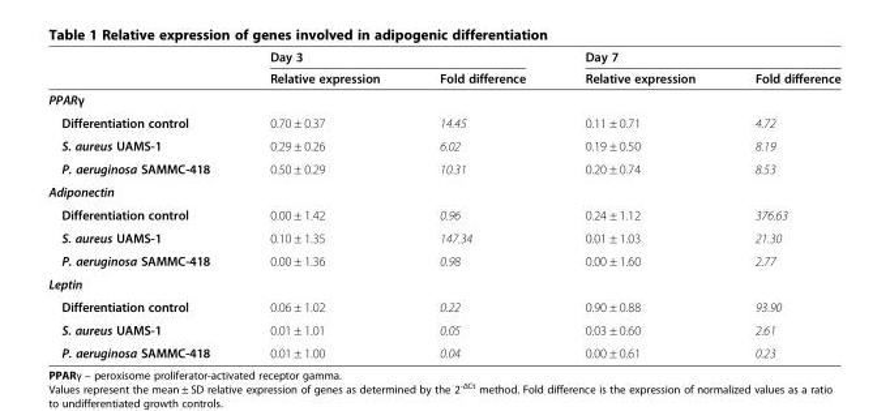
<table><thead><tr><td rowspan="2"></td><td colspan="2">Day 3</td><td colspan="2">Day 7</td></tr><tr><td>Relative expression</td><td>Fold difference</td><td>Relative expression</td><td>Fold difference</td></tr></thead><tbody><tr><td colspan="5">PPARγ</td></tr><tr><td>Differentiation control</td><td>0.70 ± 0.37</td><td>14.45</td><td>0.11 ± 0.71</td><td>4.72</td></tr><tr><td>S. aureus UAMS-1</td><td>0.29 ± 0.26</td><td>6.02</td><td>0.19 ± 0.50</td><td>8.19</td></tr><tr><td>P. aeruginosa SAMMC-418</td><td>0.50 ± 0.29</td><td>10.31</td><td>0.20 ± 0.74</td><td>8.53</td></tr><tr><td colspan="5">Adiponectin</td></tr><tr><td>Differentiation control</td><td>0.00 ± 1.42</td><td>0.96</td><td>0.24 ± 1.12</td><td>376.63</td></tr><tr><td>S. aureus UAMS-1</td><td>0.10 ± 1.35</td><td>147.34</td><td>0.01 ± 1.03</td><td>21.30</td></tr><tr><td>P. aeruginosa SAMMC-418</td><td>0.00 ± 1.36</td><td>0.98</td><td>0.00 ± 1.60</td><td>2.77</td></tr><tr><td colspan="5">Leptin</td></tr><tr><td>Differentiation control</td><td>0.06 ± 1.02</td><td>0.22</td><td>0.90 ± 0.88</td><td>93.90</td></tr><tr><td>S. aureus UAMS-1</td><td>0.01 ± 1.01</td><td>0.05</td><td>0.03 ± 0.60</td><td>2.61</td></tr><tr><td>P. aeruginosa SAMMC-418</td><td>0.01 ± 1.00</td><td>0.04</td><td>0.00 ± 0.61</td><td>0.23</td></tr></tbody></table>